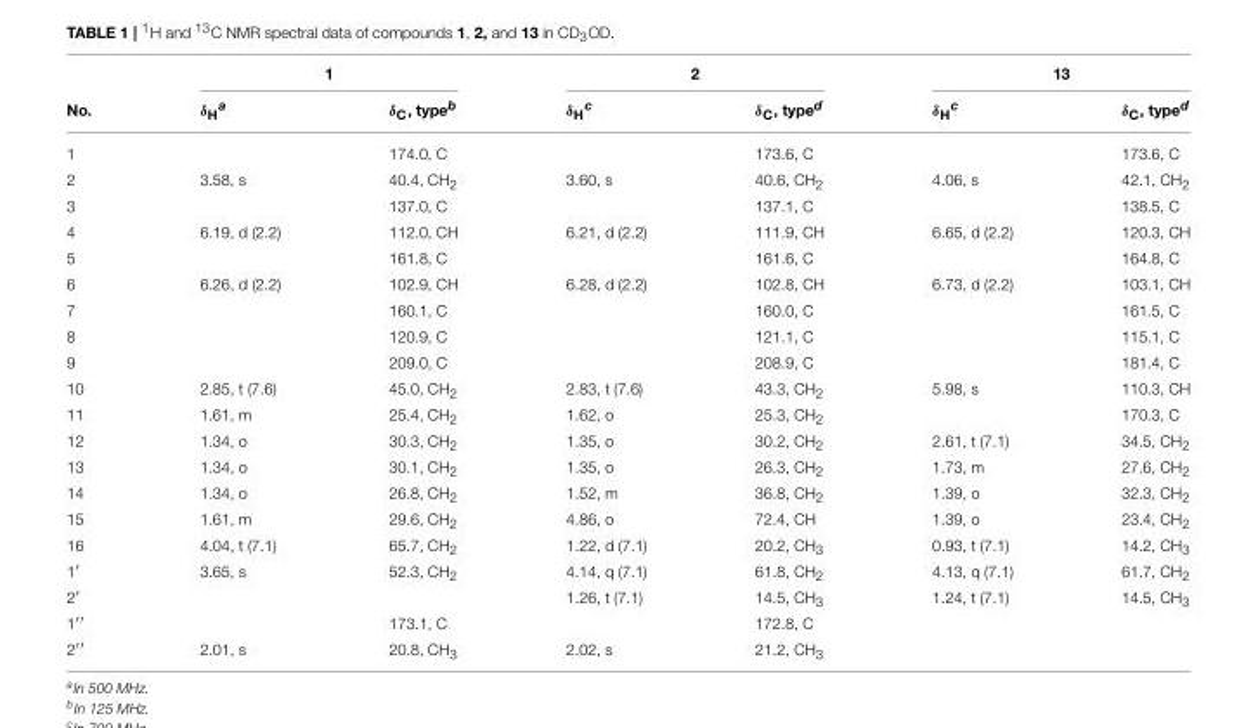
<table><thead><tr><td rowspan="2">No.</td><td colspan="2">1</td><td colspan="2">2</td><td colspan="2">13</td></tr><tr><td>δHa</td><td>δC, typeb</td><td>δHc</td><td>δC, typed</td><td>δHc</td><td>δC, typed</td></tr></thead><tbody><tr><td>1</td><td></td><td>174.0, C</td><td></td><td>173.6, C</td><td></td><td>173.6, C</td></tr><tr><td>2</td><td>3.58, s</td><td>40.4, CH<sub>2</sub></td><td>3.60, s</td><td>40.6, CH<sub>2</sub></td><td>4.06, s</td><td>42.1, CH<sub>2</sub></td></tr><tr><td>3</td><td></td><td>137.0, C</td><td></td><td>137.1, C</td><td></td><td>138.5, C</td></tr><tr><td>4</td><td>6.19, d (2.2)</td><td>112.0, CH</td><td>6.21, d (2.2)</td><td>111.9, CH</td><td>6.65, d (2.2)</td><td>120.3, CH</td></tr><tr><td>5</td><td></td><td>161.8, C</td><td></td><td>161.6, C</td><td></td><td>164.8, C</td></tr><tr><td>6</td><td>6.26, d (2.2)</td><td>102.9, CH</td><td>6.28, d (2.2)</td><td>102.8, CH</td><td>6.73, d (2.2)</td><td>103.1, CH</td></tr><tr><td>7</td><td></td><td>160.1, C</td><td></td><td>160.0, C</td><td></td><td>161.5, C</td></tr><tr><td>8</td><td></td><td>120.9, C</td><td></td><td>121.1, C</td><td></td><td>115.1, C</td></tr><tr><td>9</td><td></td><td>209.0, C</td><td></td><td>208.9, C</td><td></td><td>181.4, C</td></tr><tr><td>10</td><td>2.85, t (7.6)</td><td>45.0, CH<sub>2</sub></td><td>2.83, t (7.6)</td><td>43.3, CH<sub>2</sub></td><td>5.98, s</td><td>110.3, CH</td></tr><tr><td>11</td><td>1.61, m</td><td>25.4, CH<sub>2</sub></td><td>1.62, o</td><td>25.3, CH<sub>2</sub></td><td></td><td>170.3, C</td></tr><tr><td>12</td><td>1.34, o</td><td>30.3, CH<sub>2</sub></td><td>1.35, o</td><td>30.2, CH<sub>2</sub></td><td>2.61, t (7.1)</td><td>34.5, CH<sub>2</sub></td></tr><tr><td>13</td><td>1.34, o</td><td>30.1, CH<sub>2</sub></td><td>1.35, o</td><td>26.3, CH<sub>2</sub></td><td>1.73, m</td><td>27.6, CH<sub>2</sub></td></tr><tr><td>14</td><td>1.34, o</td><td>26.8, CH<sub>2</sub></td><td>1.52, m</td><td>36.8, CH<sub>2</sub></td><td>1.39, o</td><td>32.3, CH<sub>2</sub></td></tr><tr><td>15</td><td>1.61, m</td><td>29.6, CH<sub>2</sub></td><td>4.86, o</td><td>72.4, CH</td><td>1.39, o</td><td>23.4, CH<sub>2</sub></td></tr><tr><td>16</td><td>4.04, t (7.1)</td><td>65.7, CH<sub>2</sub></td><td>1.22, d (7.1)</td><td>20.2, CH<sub>3</sub></td><td>0.93, t (7.1)</td><td>14.2, CH<sub>3</sub></td></tr><tr><td>1′</td><td>3.65, s</td><td>52.3, CH<sub>2</sub></td><td>4.14, q (7.1)</td><td>61.8, CH<sub>2</sub></td><td>4.13, q (7.1)</td><td>61.7, CH<sub>2</sub></td></tr><tr><td>2′</td><td></td><td></td><td>1.26, t (7.1)</td><td>14.5, CH<sub>3</sub></td><td>1.24, t (7.1)</td><td>14.5, CH<sub>3</sub></td></tr><tr><td>1<sup>′′</sup></td><td></td><td>173.1, C</td><td></td><td>172.8, C</td><td></td><td></td></tr><tr><td>2<sup>′′</sup></td><td>2.01, s</td><td>20.8, CH<sub>3</sub></td><td>2.02, s</td><td>21.2, CH<sub>3</sub></td><td></td><td></td></tr></tbody></table>